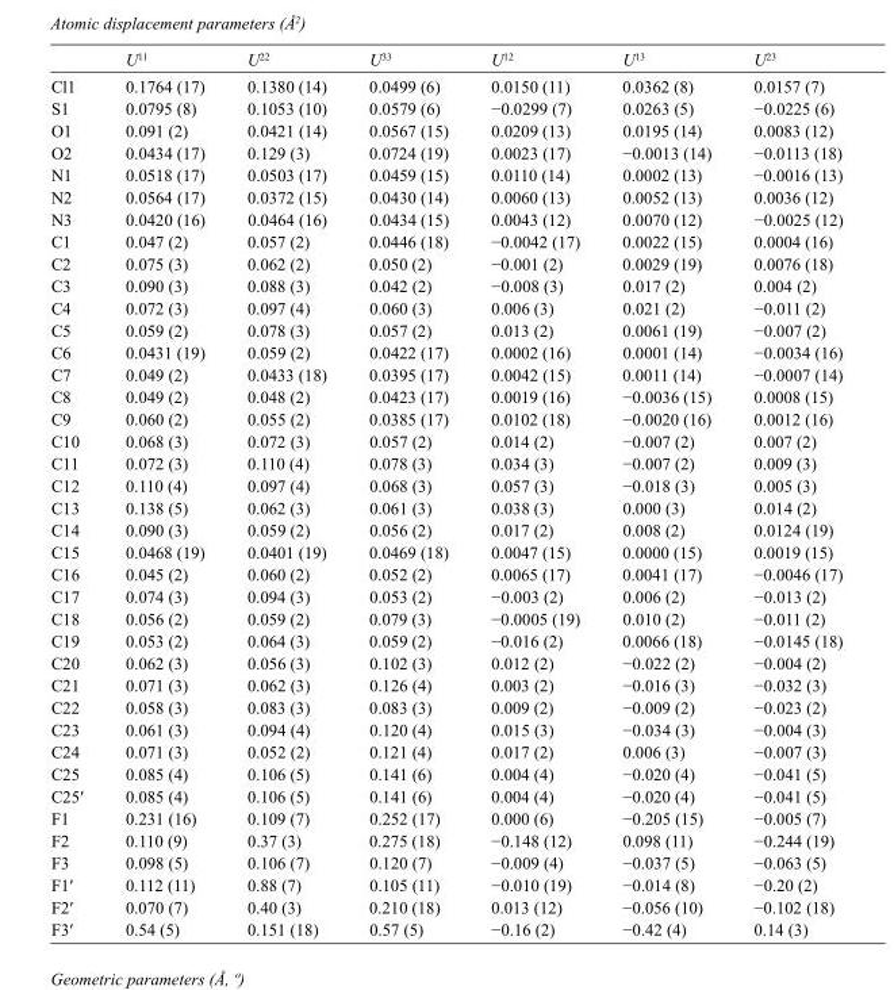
<table><thead><tr><td></td><td>U<sup>11</sup></td><td>U<sup>22</sup></td><td>U<sup>33</sup></td><td>U<sup>12</sup></td><td>U<sup>13</sup></td><td>U<sup>23</sup></td></tr></thead><tbody><tr><td>Cl1</td><td>0.1764 (17)</td><td>0.1380 (14)</td><td>0.0499 (6)</td><td>0.0150 (11)</td><td>0.0362 (8)</td><td>0.0157 (7)</td></tr><tr><td>S1</td><td>0.0795 (8)</td><td>0.1053 (10)</td><td>0.0579 (6)</td><td>−0.0299 (7)</td><td>0.0263 (5)</td><td>−0.0225 (6)</td></tr><tr><td>O1</td><td>0.091 (2)</td><td>0.0421 (14)</td><td>0.0567 (15)</td><td>0.0209 (13)</td><td>0.0195 (14)</td><td>0.0083 (12)</td></tr><tr><td>O2</td><td>0.0434 (17)</td><td>0.129 (3)</td><td>0.0724 (19)</td><td>0.0023 (17)</td><td>−0.0013 (14)</td><td>−0.0113 (18)</td></tr><tr><td>N1</td><td>0.0518 (17)</td><td>0.0503 (17)</td><td>0.0459 (15)</td><td>0.0110 (14)</td><td>0.0002 (13)</td><td>−0.0016 (13)</td></tr><tr><td>N2</td><td>0.0564 (17)</td><td>0.0372 (15)</td><td>0.0430 (14)</td><td>0.0060 (13)</td><td>0.0052 (13)</td><td>0.0036 (12)</td></tr><tr><td>N3</td><td>0.0420 (16)</td><td>0.0464 (16)</td><td>0.0434 (15)</td><td>0.0043 (12)</td><td>0.0070 (12)</td><td>−0.0025 (12)</td></tr><tr><td>C1</td><td>0.047 (2)</td><td>0.057 (2)</td><td>0.0446 (18)</td><td>−0.0042 (17)</td><td>0.0022 (15)</td><td>0.0004 (16)</td></tr><tr><td>C2</td><td>0.075 (3)</td><td>0.062 (2)</td><td>0.050 (2)</td><td>−0.001 (2)</td><td>0.0029 (19)</td><td>0.0076 (18)</td></tr><tr><td>C3</td><td>0.090 (3)</td><td>0.088 (3)</td><td>0.042 (2)</td><td>−0.008 (3)</td><td>0.017 (2)</td><td>0.004 (2)</td></tr><tr><td>C4</td><td>0.072 (3)</td><td>0.097 (4)</td><td>0.060 (3)</td><td>0.006 (3)</td><td>0.021 (2)</td><td>−0.011 (2)</td></tr><tr><td>C5</td><td>0.059 (2)</td><td>0.078 (3)</td><td>0.057 (2)</td><td>0.013 (2)</td><td>0.0061 (19)</td><td>−0.007 (2)</td></tr><tr><td>C6</td><td>0.0431 (19)</td><td>0.059 (2)</td><td>0.0422 (17)</td><td>0.0002 (16)</td><td>0.0001 (14)</td><td>−0.0034 (16)</td></tr><tr><td>C7</td><td>0.049 (2)</td><td>0.0433 (18)</td><td>0.0395 (17)</td><td>0.0042 (15)</td><td>0.0011 (14)</td><td>−0.0007 (14)</td></tr><tr><td>C8</td><td>0.049 (2)</td><td>0.048 (2)</td><td>0.0423 (17)</td><td>0.0019 (16)</td><td>−0.0036 (15)</td><td>0.0008 (15)</td></tr><tr><td>C9</td><td>0.060 (2)</td><td>0.055 (2)</td><td>0.0385 (17)</td><td>0.0102 (18)</td><td>−0.0020 (16)</td><td>0.0012 (16)</td></tr><tr><td>C10</td><td>0.068 (3)</td><td>0.072 (3)</td><td>0.057 (2)</td><td>0.014 (2)</td><td>−0.007 (2)</td><td>0.007 (2)</td></tr><tr><td>C11</td><td>0.072 (3)</td><td>0.110 (4)</td><td>0.078 (3)</td><td>0.034 (3)</td><td>−0.007 (2)</td><td>0.009 (3)</td></tr><tr><td>C12</td><td>0.110 (4)</td><td>0.097 (4)</td><td>0.068 (3)</td><td>0.057 (3)</td><td>−0.018 (3)</td><td>0.005 (3)</td></tr><tr><td>C13</td><td>0.138 (5)</td><td>0.062 (3)</td><td>0.061 (3)</td><td>0.038 (3)</td><td>0.000 (3)</td><td>0.014 (2)</td></tr><tr><td>C14</td><td>0.090 (3)</td><td>0.059 (2)</td><td>0.056 (2)</td><td>0.017 (2)</td><td>0.008 (2)</td><td>0.0124 (19)</td></tr><tr><td>C15</td><td>0.0468 (19)</td><td>0.0401 (19)</td><td>0.0469 (18)</td><td>0.0047 (15)</td><td>0.0000 (15)</td><td>0.0019 (15)</td></tr><tr><td>C16</td><td>0.045 (2)</td><td>0.060 (2)</td><td>0.052 (2)</td><td>0.0065 (17)</td><td>0.0041 (17)</td><td>−0.0046 (17)</td></tr><tr><td>C17</td><td>0.074 (3)</td><td>0.094 (3)</td><td>0.053 (2)</td><td>−0.003 (2)</td><td>0.006 (2)</td><td>−0.013 (2)</td></tr><tr><td>C18</td><td>0.056 (2)</td><td>0.059 (2)</td><td>0.079 (3)</td><td>−0.0005 (19)</td><td>0.010 (2)</td><td>−0.011 (2)</td></tr><tr><td>C19</td><td>0.053 (2)</td><td>0.064 (3)</td><td>0.059 (2)</td><td>−0.016 (2)</td><td>0.0066 (18)</td><td>−0.0145 (18)</td></tr><tr><td>C20</td><td>0.062 (3)</td><td>0.056 (3)</td><td>0.102 (3)</td><td>0.012 (2)</td><td>−0.022 (2)</td><td>−0.004 (2)</td></tr><tr><td>C21</td><td>0.071 (3)</td><td>0.062 (3)</td><td>0.126 (4)</td><td>0.003 (2)</td><td>−0.016 (3)</td><td>−0.032 (3)</td></tr><tr><td>C22</td><td>0.058 (3)</td><td>0.083 (3)</td><td>0.083 (3)</td><td>0.009 (2)</td><td>−0.009 (2)</td><td>−0.023 (2)</td></tr><tr><td>C23</td><td>0.061 (3)</td><td>0.094 (4)</td><td>0.120 (4)</td><td>0.015 (3)</td><td>−0.034 (3)</td><td>−0.004 (3)</td></tr><tr><td>C24</td><td>0.071 (3)</td><td>0.052 (2)</td><td>0.121 (4)</td><td>0.017 (2)</td><td>0.006 (3)</td><td>−0.007 (3)</td></tr><tr><td>C25</td><td>0.085 (4)</td><td>0.106 (5)</td><td>0.141 (6)</td><td>0.004 (4)</td><td>−0.020 (4)</td><td>−0.041 (5)</td></tr><tr><td>C25′</td><td>0.085 (4)</td><td>0.106 (5)</td><td>0.141 (6)</td><td>0.004 (4)</td><td>−0.020 (4)</td><td>−0.041 (5)</td></tr><tr><td>F1</td><td>0.231 (16)</td><td>0.109 (7)</td><td>0.252 (17)</td><td>0.000 (6)</td><td>−0.205 (15)</td><td>−0.005 (7)</td></tr><tr><td>F2</td><td>0.110 (9)</td><td>0.37 (3)</td><td>0.275 (18)</td><td>−0.148 (12)</td><td>0.098 (11)</td><td>−0.244 (19)</td></tr><tr><td>F3</td><td>0.098 (5)</td><td>0.106 (7)</td><td>0.120 (7)</td><td>−0.009 (4)</td><td>−0.037 (5)</td><td>−0.063 (5)</td></tr><tr><td>F1′</td><td>0.112 (11)</td><td>0.88 (7)</td><td>0.105 (11)</td><td>−0.010 (19)</td><td>−0.014 (8)</td><td>−0.20 (2)</td></tr><tr><td>F2′</td><td>0.070 (7)</td><td>0.40 (3)</td><td>0.210 (18)</td><td>0.013 (12)</td><td>−0.056 (10)</td><td>−0.102 (18)</td></tr><tr><td>F3′</td><td>0.54 (5)</td><td>0.151 (18)</td><td>0.57 (5)</td><td>−0.16 (2)</td><td>−0.42 (4)</td><td>0.14 (3)</td></tr></tbody></table>